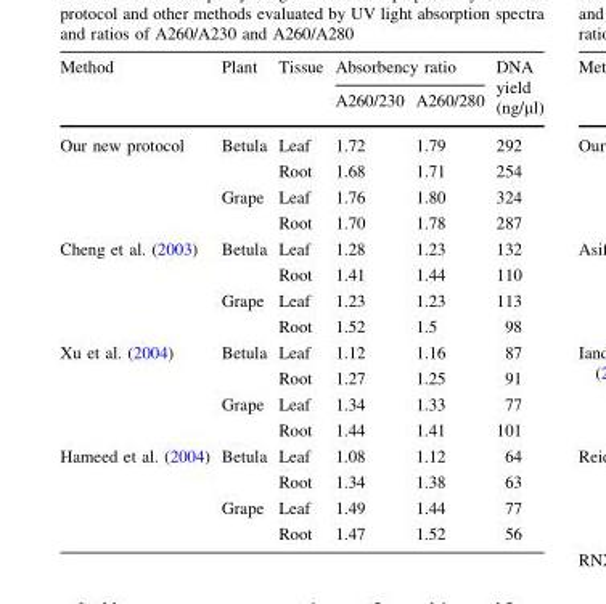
<table><thead><tr><td rowspan="2">Method</td><td rowspan="2">Plant</td><td rowspan="2">Tissue</td><td colspan="2">Absorbency ratio</td><td rowspan="2">DNA yield (ng/µl)</td></tr><tr><td>A260/230</td><td>A260/280</td></tr></thead><tbody><tr><td rowspan="4">Our new protocol</td><td rowspan="2">Betula</td><td>Leaf</td><td>1.72</td><td>1.79</td><td>292</td></tr><tr><td>Root</td><td>1.68</td><td>1.71</td><td>254</td></tr><tr><td rowspan="2">Grape</td><td>Leaf</td><td>1.76</td><td>1.80</td><td>324</td></tr><tr><td>Root</td><td>1.70</td><td>1.78</td><td>287</td></tr><tr><td rowspan="4">Cheng et al. (2003)</td><td rowspan="2">Betula</td><td>Leaf</td><td>1.28</td><td>1.23</td><td>132</td></tr><tr><td>Root</td><td>1.41</td><td>1.44</td><td>110</td></tr><tr><td rowspan="2">Grape</td><td>Leaf</td><td>1.23</td><td>1.23</td><td>113</td></tr><tr><td>Root</td><td>1.52</td><td>1.5</td><td>98</td></tr><tr><td rowspan="4">Xu et al. (2004)</td><td rowspan="2">Betula</td><td>Leaf</td><td>1.12</td><td>1.16</td><td>87</td></tr><tr><td>Root</td><td>1.27</td><td>1.25</td><td>91</td></tr><tr><td rowspan="2">Grape</td><td>Leaf</td><td>1.34</td><td>1.33</td><td>77</td></tr><tr><td>Root</td><td>1.44</td><td>1.41</td><td>101</td></tr><tr><td rowspan="4">Hameed et al. (2004)</td><td rowspan="2">Betula</td><td>Leaf</td><td>1.08</td><td>1.12</td><td>64</td></tr><tr><td>Root</td><td>1.34</td><td>1.38</td><td>63</td></tr><tr><td rowspan="2">Grape</td><td>Leaf</td><td>1.49</td><td>1.44</td><td>77</td></tr><tr><td>Root</td><td>1.47</td><td>1.52</td><td>56</td></tr></tbody></table>